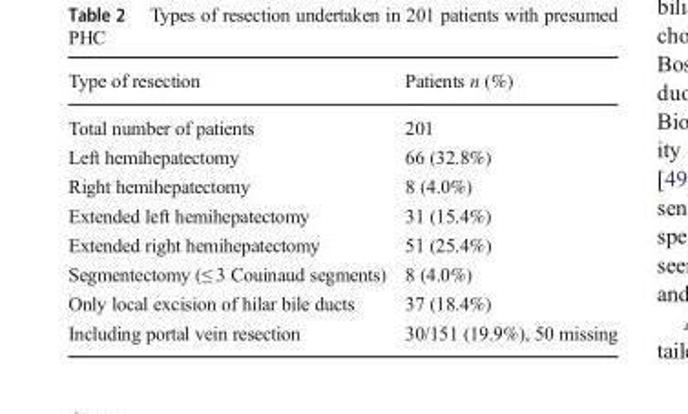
<table><thead><tr><td>Type of resection</td><td>Patients n (%)</td></tr></thead><tbody><tr><td>Total number of patients</td><td>201</td></tr><tr><td>Left hemihepatectomy</td><td>66 (32.8%)</td></tr><tr><td>Right hemihepatectomy</td><td>8 (4.0%)</td></tr><tr><td>Extended left hemihepatectomy</td><td>31 (15.4%)</td></tr><tr><td>Extended right hemihepatectomy</td><td>51 (25.4%)</td></tr><tr><td>Segmentectomy (≤ 3 Couinaud segments)</td><td>8 (4.0%)</td></tr><tr><td>Only local excision of hilar bile ducts</td><td>37 (18.4%)</td></tr><tr><td>Including portal vein resection</td><td>30/151 (19.9%), 50 missing</td></tr></tbody></table>